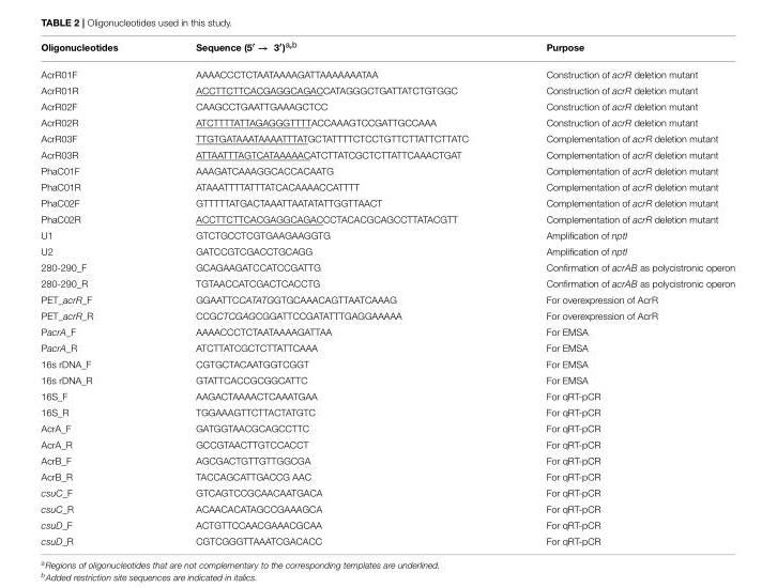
<table><thead><tr><td>Oligonucleotides</td><td>Sequence (5′ → 3′)<sup>a,b</sup></td><td>Purpose</td></tr></thead><tbody><tr><td>AcrR01F</td><td>AAAACCCTCTAATAAAAGATTAAAAAAATAA</td><td>Construction of acrR deletion mutant</td></tr><tr><td>AcrR01R</td><td>ACCTTCTTCACGAGGCAGACCATAGGGCTGATTATCTGTGGC</td><td>Construction of acrR deletion mutant</td></tr><tr><td>AcrR02F</td><td>CAAGCCTGAATTGAAAGCTCC</td><td>Construction of acrR deletion mutant</td></tr><tr><td>AcrR02R</td><td>ATCTTTTATTAGAGGGTTTTACCAAAGTCCGATTGCCAAA</td><td>Construction of acrR deletion mutant</td></tr><tr><td>AcrR03F</td><td>TTGTGATAAATAAAATTTATGCTATTTTCTCCTGTTCTTATTCTTATC</td><td>Complementation of acrR deletion mutant</td></tr><tr><td>AcrR03R</td><td>ATTAATTTAGTCATAAAAACATCTTATCGCTCTTATTCAAACTGAT</td><td>Complementation of acrR deletion mutant</td></tr><tr><td>PhaC01F</td><td>AAAGATCAAAGGCACCACAATG</td><td>Complementation of acrR deletion mutant</td></tr><tr><td>PhaC01R</td><td>ATAAATTTTATTTATCACAAAACCATTTT</td><td>Complementation of acrR deletion mutant</td></tr><tr><td>PhaC02F</td><td>GTTTTTATGACTAAATTAATATATTGGTTAACT</td><td>Complementation of acrR deletion mutant</td></tr><tr><td>PhaC02R</td><td>ACCTTCTTCACGAGGCAGACCCTACACGCAGCCTTATACGTT</td><td>Complementation of acrR deletion mutant</td></tr><tr><td>U1</td><td>GTCTGCCTCGTGAAGAAGGTG</td><td>Amplification of nptI</td></tr><tr><td>U2</td><td>GATCCGTCGACCTGCAGG</td><td>Amplification of nptI</td></tr><tr><td>280-290_F</td><td>GCAGAAGATCCATCCGATTG</td><td>Confirmation of acrAB as polycistronic operon</td></tr><tr><td>280-290_R</td><td>TGTAACCATCGACTCACCTG</td><td>Confirmation of acrAB as polycistronic operon</td></tr><tr><td>PET_acrR_F</td><td>GGAATTCCATATGGTGCAAACAGTTAATCAAAG</td><td>For overexpression of AcrR</td></tr><tr><td>PET_acrR_R</td><td>CCGCTCGAGCGGATTCCGATATTTGAGGAAAAA</td><td>For overexpression of AcrR</td></tr><tr><td>PacrA_F</td><td>AAAACCCTCTAATAAAAGATTAA</td><td>For EMSA</td></tr><tr><td>PacrA_R</td><td>ATCTTATCGCTCTTATTCAAA</td><td>For EMSA</td></tr><tr><td>16s rDNA_F</td><td>CGTGCTACAATGGTCGGT</td><td>For EMSA</td></tr><tr><td>16s rDNA_R</td><td>GTATTCACCGCGGCATTC</td><td>For EMSA</td></tr><tr><td>16S_F</td><td>AAGACTAAAACTCAAATGAA</td><td>For qRT-pCR</td></tr><tr><td>16S_R</td><td>TGGAAAGTTCTTACTATGTC</td><td>For qRT-pCR</td></tr><tr><td>AcrA_F</td><td>GATGGTAACGCAGCCTTC</td><td>For qRT-pCR</td></tr><tr><td>AcrA_R</td><td>GCCGTAACTTGTCCACCT</td><td>For qRT-pCR</td></tr><tr><td>AcrB_F</td><td>AGCGACTGTTGTTGGCGA</td><td>For qRT-pCR</td></tr><tr><td>AcrB_R</td><td>TACCAGCATTGACCG AAC</td><td>For qRT-pCR</td></tr><tr><td>csuC_F</td><td>GTCAGTCCGCAACAATGACA</td><td>For qRT-pCR</td></tr><tr><td>csuC_R</td><td>ACAACACATAGCCGAAAGCA</td><td>For qRT-pCR</td></tr><tr><td>csuD_F</td><td>ACTGTTCCAACGAAACGCAA</td><td>For qRT-pCR</td></tr><tr><td>csuD_R</td><td>CGTCGGGTTAAATCGACACC</td><td>For qRT-pCR</td></tr></tbody></table>